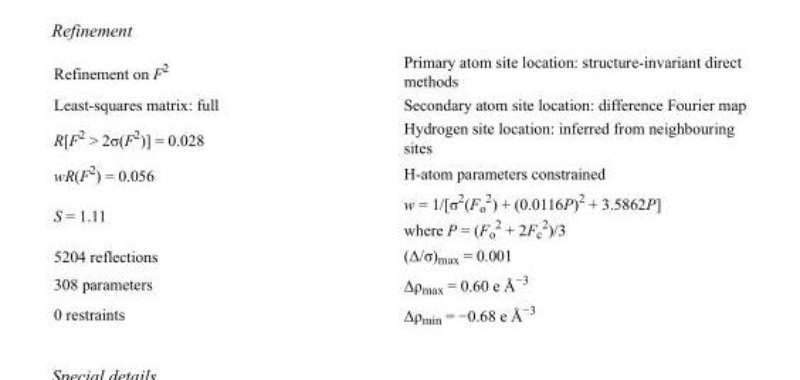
<table><tbody><tr><td>Refinement on F<sup>2</sup></td><td>Primary atom site location: structure-invariant direct methods</td></tr><tr><td>Least-squares matrix: full</td><td>Secondary atom site location: difference Fourier map</td></tr><tr><td>R[F<sup>2</sup> &gt; 2σ(F<sup>2</sup>)] = 0.028</td><td>Hydrogen site location: inferred from neighbouring sites</td></tr><tr><td>wR(F<sup>2</sup>) = 0.056</td><td>H-atom parameters constrained</td></tr><tr><td>S = 1.11</td><td>w = 1/[σ<sup>2</sup>(F<sub>o</sub> <sup>2</sup>) + (0.0116P)<sup>2</sup> + 3.5862P] where P = (F<sub>o</sub> <sup>2</sup> + 2F<sub>c</sub> <sup>2</sup>)/3</td></tr><tr><td>5204 reflections</td><td>(Δ/σ)<sub>max</sub> = 0.001</td></tr><tr><td>308 parameters</td><td>Δρ<sub>max</sub> = 0.60 e Å<sup>−3</sup></td></tr><tr><td>0 restraints</td><td>Δρ<sub>min</sub> = −0.68 e Å<sup>−3</sup></td></tr></tbody></table>